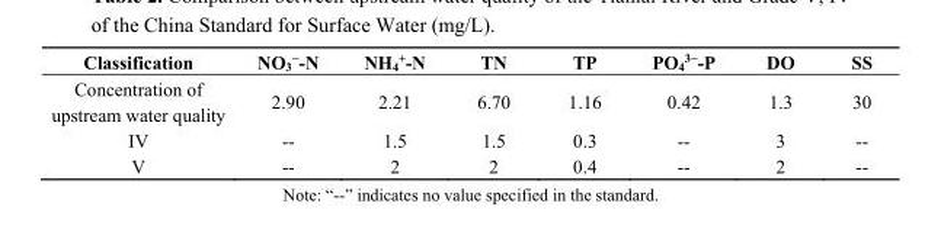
<table><thead><tr><td>Classification</td><td>NO<sub>3</sub><sup>−</sup>-N</td><td>NH<sub>4</sub><sup>+</sup>-N</td><td>TN</td><td>TP</td><td>PO<sub>4</sub><sup>3−</sup>-P</td><td>DO</td><td>SS</td></tr></thead><tbody><tr><td>Concentration of upstream water quality</td><td>2.90</td><td>2.21</td><td>6.70</td><td>1.16</td><td>0.42</td><td>1.3</td><td>30</td></tr><tr><td>IV</td><td>--</td><td>1.5</td><td>1.5</td><td>0.3</td><td>--</td><td>3</td><td>--</td></tr><tr><td>V</td><td>--</td><td>2</td><td>2</td><td>0.4</td><td>--</td><td>2</td><td>--</td></tr></tbody></table>